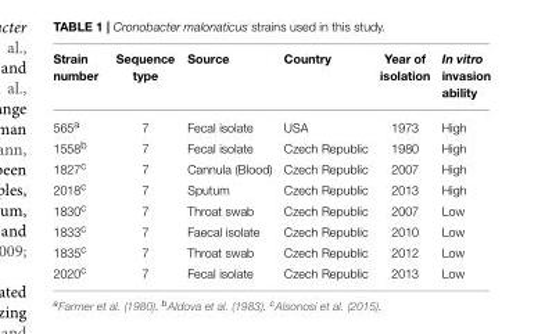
<table><thead><tr><td>Strain number</td><td>Sequence type</td><td>Source</td><td>Country</td><td>Year of isolation</td><td>In vitro invasion ability</td></tr></thead><tbody><tr><td>565<sup>a</sup></td><td>7</td><td>Fecal isolate</td><td>USA</td><td>1973</td><td>High</td></tr><tr><td>1558<sup>b</sup></td><td>7</td><td>Fecal isolate</td><td>Czech Republic</td><td>1980</td><td>High</td></tr><tr><td>1827<sup>c</sup></td><td>7</td><td>Cannula (Blood)</td><td>Czech Republic</td><td>2007</td><td>High</td></tr><tr><td>2018<sup>c</sup></td><td>7</td><td>Sputum</td><td>Czech Republic</td><td>2013</td><td>High</td></tr><tr><td>1830<sup>c</sup></td><td>7</td><td>Throat swab</td><td>Czech Republic</td><td>2007</td><td>Low</td></tr><tr><td>1833<sup>c</sup></td><td>7</td><td>Faecal isolate</td><td>Czech Republic</td><td>2010</td><td>Low</td></tr><tr><td>1835<sup>c</sup></td><td>7</td><td>Throat swab</td><td>Czech Republic</td><td>2012</td><td>Low</td></tr><tr><td>2020<sup>c</sup></td><td>7</td><td>Fecal isolate</td><td>Czech Republic</td><td>2013</td><td>Low</td></tr></tbody></table>